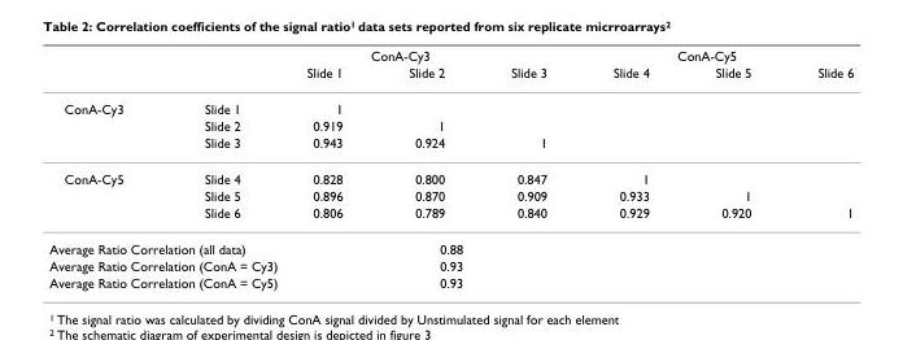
<table><thead><tr><td rowspan="2"></td><td rowspan="2"></td><td colspan="3">ConA-Cy3</td><td colspan="3">ConA-Cy5</td></tr><tr><td>Slide 1</td><td>Slide 2</td><td>Slide 3</td><td>Slide 4</td><td>Slide 5</td><td>Slide 6</td></tr></thead><tbody><tr><td rowspan="3">ConA-Cy3</td><td>Slide 1</td><td>1</td><td></td><td></td><td></td><td></td><td></td></tr><tr><td>Slide 2</td><td>0.919</td><td>1</td><td></td><td></td><td></td><td></td></tr><tr><td>Slide 3</td><td>0.943</td><td>0.924</td><td>1</td><td></td><td></td><td></td></tr><tr><td rowspan="3">ConA-Cy5</td><td>Slide 4</td><td>0.828</td><td>0.800</td><td>0.847</td><td>1</td><td></td><td></td></tr><tr><td>Slide 5</td><td>0.896</td><td>0.870</td><td>0.909</td><td>0.933</td><td>1</td><td></td></tr><tr><td>Slide 6</td><td>0.806</td><td>0.789</td><td>0.840</td><td>0.929</td><td>0.920</td><td>1</td></tr><tr><td colspan="3">Average Ratio Correlation (all data)</td><td colspan="2">0.88</td><td></td><td></td><td></td></tr><tr><td colspan="3">Average Ratio Correlation (ConA = Cy3)</td><td colspan="2">0.93</td><td></td><td></td><td></td></tr><tr><td colspan="3">Average Ratio Correlation (ConA = Cy5)</td><td colspan="2">0.93</td><td></td><td></td><td></td></tr></tbody></table>